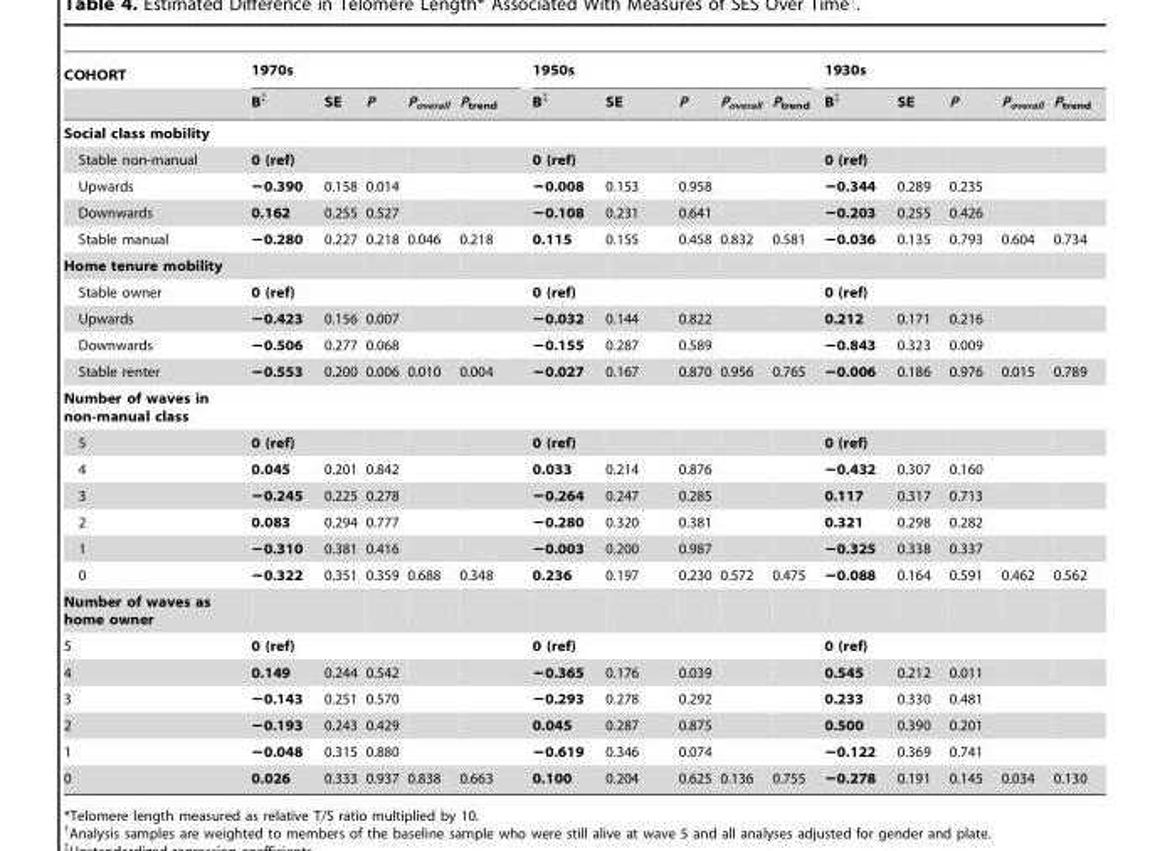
<table><thead><tr><td rowspan="2">COHORT</td><td colspan="5">1970s</td><td colspan="5">1950s</td><td colspan="5">1930s</td></tr><tr><td>B‡</td><td>SE</td><td>P</td><td>P<sub>overall</sub></td><td>P<sub>trend</sub></td><td>B‡</td><td>SE</td><td>P</td><td>P<sub>overall</sub></td><td>P<sub>trend</sub></td><td>B‡</td><td>SE</td><td>P</td><td>P<sub>overall</sub></td><td>P<sub>trend</sub></td></tr></thead><tbody><tr><td colspan="16">Social class mobility</td></tr><tr><td>Stable non-manual</td><td>0 (ref)</td><td></td><td></td><td></td><td></td><td>0 (ref)</td><td></td><td></td><td></td><td></td><td>0 (ref)</td><td></td><td></td><td></td><td></td></tr><tr><td>Upwards</td><td>−0.390</td><td>0.158</td><td>0.014</td><td></td><td></td><td>−0.008</td><td>0.153</td><td>0.958</td><td></td><td></td><td>−0.344</td><td>0.289</td><td>0.235</td><td></td><td></td></tr><tr><td>Downwards</td><td>0.162</td><td>0.255</td><td>0.527</td><td></td><td></td><td>−0.108</td><td>0.231</td><td>0.641</td><td></td><td></td><td>−0.203</td><td>0.255</td><td>0.426</td><td></td><td></td></tr><tr><td>Stable manual</td><td>−0.280</td><td>0.227</td><td>0.218</td><td>0.046</td><td>0.218</td><td>0.115</td><td>0.155</td><td>0.458</td><td>0.832</td><td>0.581</td><td>−0.036</td><td>0.135</td><td>0.793</td><td>0.604</td><td>0.734</td></tr><tr><td colspan="16">Home tenure mobility</td></tr><tr><td>Stable owner</td><td>0 (ref)</td><td></td><td></td><td></td><td></td><td>0 (ref)</td><td></td><td></td><td></td><td></td><td>0 (ref)</td><td></td><td></td><td></td><td></td></tr><tr><td>Upwards</td><td>−0.423</td><td>0.156</td><td>0.007</td><td></td><td></td><td>−0.032</td><td>0.144</td><td>0.822</td><td></td><td></td><td>0.212</td><td>0.171</td><td>0.216</td><td></td><td></td></tr><tr><td>Downwards</td><td>−0.506</td><td>0.277</td><td>0.068</td><td></td><td></td><td>−0.155</td><td>0.287</td><td>0.589</td><td></td><td></td><td>−0.843</td><td>0.323</td><td>0.009</td><td></td><td></td></tr><tr><td>Stable renter</td><td>−0.553</td><td>0.200</td><td>0.006</td><td>0.010</td><td>0.004</td><td>−0.027</td><td>0.167</td><td>0.870</td><td>0.956</td><td>0.765</td><td>−0.006</td><td>0.186</td><td>0.976</td><td>0.015</td><td>0.789</td></tr><tr><td colspan="16">Number of waves in non-manual class</td></tr><tr><td>5</td><td>0 (ref)</td><td></td><td></td><td></td><td></td><td>0 (ref)</td><td></td><td></td><td></td><td></td><td>0 (ref)</td><td></td><td></td><td></td><td></td></tr><tr><td>4</td><td>0.045</td><td>0.201</td><td>0.842</td><td></td><td></td><td>0.033</td><td>0.214</td><td>0.876</td><td></td><td></td><td>−0.432</td><td>0.307</td><td>0.160</td><td></td><td></td></tr><tr><td>3</td><td>−0.245</td><td>0.225</td><td>0.278</td><td></td><td></td><td>−0.264</td><td>0.247</td><td>0.285</td><td></td><td></td><td>0.117</td><td>0.317</td><td>0.713</td><td></td><td></td></tr><tr><td>2</td><td>0.083</td><td>0.294</td><td>0.777</td><td></td><td></td><td>−0.280</td><td>0.320</td><td>0.381</td><td></td><td></td><td>0.321</td><td>0.298</td><td>0.282</td><td></td><td></td></tr><tr><td>1</td><td>−0.310</td><td>0.381</td><td>0.416</td><td></td><td></td><td>−0.003</td><td>0.200</td><td>0.987</td><td></td><td></td><td>−0.325</td><td>0.338</td><td>0.337</td><td></td><td></td></tr><tr><td>0</td><td>−0.322</td><td>0.351</td><td>0.359</td><td>0.688</td><td>0.348</td><td>0.236</td><td>0.197</td><td>0.230</td><td>0.572</td><td>0.475</td><td>−0.088</td><td>0.164</td><td>0.591</td><td>0.462</td><td>0.562</td></tr><tr><td colspan="16">Number of waves as home owner</td></tr><tr><td>5</td><td>0 (ref)</td><td></td><td></td><td></td><td></td><td>0 (ref)</td><td></td><td></td><td></td><td></td><td>0 (ref)</td><td></td><td></td><td></td><td></td></tr><tr><td>4</td><td>0.149</td><td>0.244</td><td>0.542</td><td></td><td></td><td>−0.365</td><td>0.176</td><td>0.039</td><td></td><td></td><td>0.545</td><td>0.212</td><td>0.011</td><td></td><td></td></tr><tr><td>3</td><td>−0.143</td><td>0.251</td><td>0.570</td><td></td><td></td><td>−0.293</td><td>0.278</td><td>0.292</td><td></td><td></td><td>0.233</td><td>0.330</td><td>0.481</td><td></td><td></td></tr><tr><td>2</td><td>−0.193</td><td>0.243</td><td>0.429</td><td></td><td></td><td>0.045</td><td>0.287</td><td>0.875</td><td></td><td></td><td>0.500</td><td>0.390</td><td>0.201</td><td></td><td></td></tr><tr><td>1</td><td>−0.048</td><td>0.315</td><td>0.880</td><td></td><td></td><td>−0.619</td><td>0.346</td><td>0.074</td><td></td><td></td><td>−0.122</td><td>0.369</td><td>0.741</td><td></td><td></td></tr><tr><td>0</td><td>0.026</td><td>0.333</td><td>0.937</td><td>0.838</td><td>0.663</td><td>0.100</td><td>0.204</td><td>0.625</td><td>0.136</td><td>0.755</td><td>−0.278</td><td>0.191</td><td>0.145</td><td>0.034</td><td>0.130</td></tr></tbody></table>